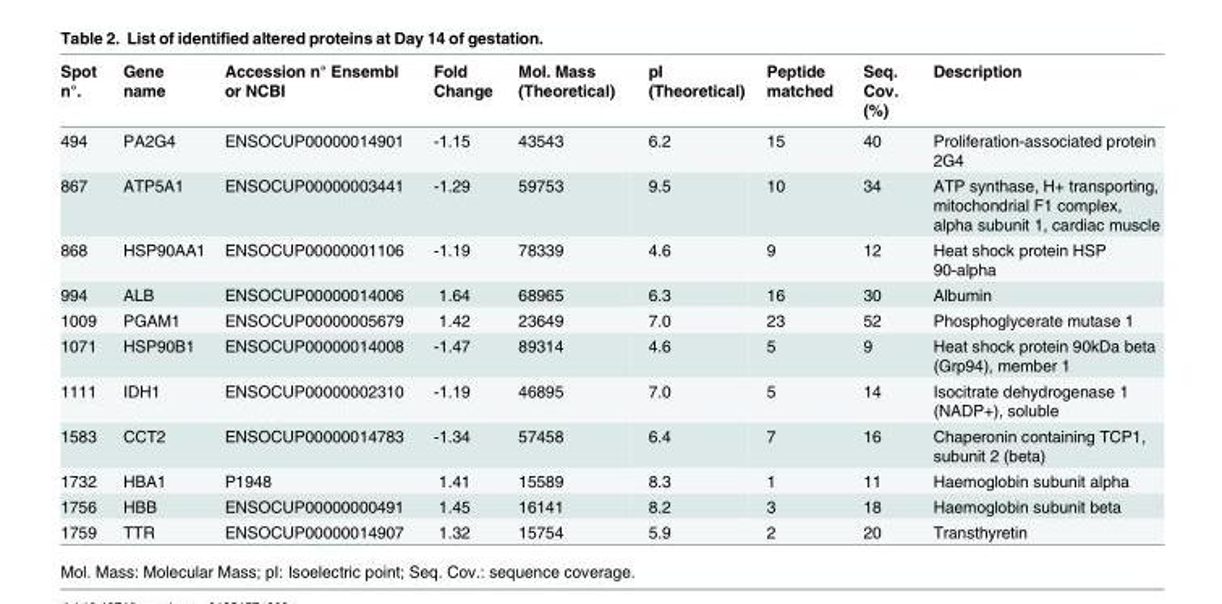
<table><thead><tr><td>Spot n°.</td><td>Gene name</td><td>Accession n° Ensembl or NCBI</td><td>Fold Change</td><td>Mol. Mass (Theoretical)</td><td>pI (Theoretical)</td><td>Peptide matched</td><td>Seq. Cov. (%)</td><td>Description</td></tr></thead><tbody><tr><td>494</td><td>PA2G4</td><td>ENSOCUP00000014901</td><td>-1.15</td><td>43543</td><td>6.2</td><td>15</td><td>40</td><td>Proliferation-associated protein 2G4</td></tr><tr><td>867</td><td>ATP5A1</td><td>ENSOCUP00000003441</td><td>-1.29</td><td>59753</td><td>9.5</td><td>10</td><td>34</td><td>ATP synthase, H+ transporting, mitochondrial F1 complex, alpha subunit 1, cardiac muscle</td></tr><tr><td>868</td><td>HSP90AA1</td><td>ENSOCUP00000001106</td><td>-1.19</td><td>78339</td><td>4.6</td><td>9</td><td>12</td><td>Heat shock protein HSP 90-alpha</td></tr><tr><td>994</td><td>ALB</td><td>ENSOCUP00000014006</td><td>1.64</td><td>68965</td><td>6.3</td><td>16</td><td>30</td><td>Albumin</td></tr><tr><td>1009</td><td>PGAM1</td><td>ENSOCUP00000005679</td><td>1.42</td><td>23649</td><td>7.0</td><td>23</td><td>52</td><td>Phosphoglycerate mutase 1</td></tr><tr><td>1071</td><td>HSP90B1</td><td>ENSOCUP00000014008</td><td>-1.47</td><td>89314</td><td>4.6</td><td>5</td><td>9</td><td>Heat shock protein 90kDa beta (Grp94), member 1</td></tr><tr><td>1111</td><td>IDH1</td><td>ENSOCUP00000002310</td><td>-1.19</td><td>46895</td><td>7.0</td><td>5</td><td>14</td><td>Isocitrate dehydrogenase 1 (NADP+), soluble</td></tr><tr><td>1583</td><td>CCT2</td><td>ENSOCUP00000014783</td><td>-1.34</td><td>57458</td><td>6.4</td><td>7</td><td>16</td><td>Chaperonin containing TCP1, subunit 2 (beta)</td></tr><tr><td>1732</td><td>HBA1</td><td>P1948</td><td>1.41</td><td>15589</td><td>8.3</td><td>1</td><td>11</td><td>Haemoglobin subunit alpha</td></tr><tr><td>1756</td><td>HBB</td><td>ENSOCUP00000000491</td><td>1.45</td><td>16141</td><td>8.2</td><td>3</td><td>18</td><td>Haemoglobin subunit beta</td></tr><tr><td>1759</td><td>TTR</td><td>ENSOCUP00000014907</td><td>1.32</td><td>15754</td><td>5.9</td><td>2</td><td>20</td><td>Transthyretin</td></tr></tbody></table>